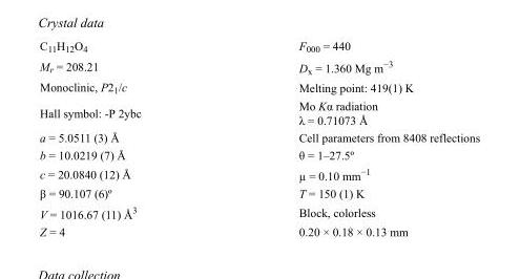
<table><tbody><tr><td>C<sub>11</sub>H<sub>12</sub>O<sub>4</sub></td><td>F000 = 440</td></tr><tr><td>M<sub>r</sub> = 208.21</td><td>D<sub>x</sub> = 1.360 Mg m<sup>−3</sup></td></tr><tr><td>Monoclinic, P2<sub>1</sub>/c</td><td>Melting point: 419(1) K</td></tr><tr><td>Hall symbol: -P 2ybc</td><td>Mo Kα radiation λ = 0.71073 Å</td></tr><tr><td>a = 5.0511 (3) Å</td><td>Cell parameters from 8408 reflections</td></tr><tr><td>b = 10.0219 (7) Å</td><td>θ = 1–27.5º</td></tr><tr><td>c = 20.0840 (12) Å</td><td>µ = 0.10 mm<sup>−1</sup></td></tr><tr><td>β = 90.107 (6)º</td><td>T = 150 (1) K</td></tr><tr><td>V = 1016.67 (11) Å<sup>3</sup></td><td>Block, colorless</td></tr><tr><td>Z = 4</td><td>0.20 × 0.18 × 0.13 mm</td></tr></tbody></table>